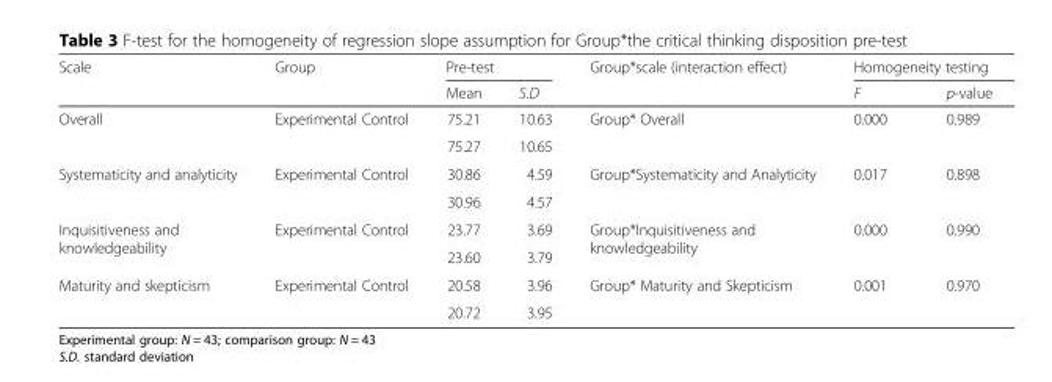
<table><thead><tr><td rowspan="2">Scale</td><td rowspan="2">Group</td><td colspan="2">Pre-test</td><td rowspan="2">Group*scale (interaction effect)</td><td colspan="2">Homogeneity testing</td></tr><tr><td>Mean</td><td>S.D</td><td>F</td><td>p-value</td></tr></thead><tbody><tr><td rowspan="2">Overall</td><td rowspan="2">Experimental Control</td><td>75.21</td><td>10.63</td><td rowspan="2">Group* Overall</td><td rowspan="2">0.000</td><td rowspan="2">0.989</td></tr><tr><td>75.27</td><td>10.65</td></tr><tr><td rowspan="2">Systematicity and analyticity</td><td rowspan="2">Experimental Control</td><td>30.86</td><td>4.59</td><td rowspan="2">Group*Systematicity and Analyticity</td><td rowspan="2">0.017</td><td rowspan="2">0.898</td></tr><tr><td>30.96</td><td>4.57</td></tr><tr><td rowspan="2">Inquisitiveness and knowledgeability</td><td rowspan="2">Experimental Control</td><td>23.77</td><td>3.69</td><td rowspan="2">Group*Inquisitiveness and knowledgeability</td><td rowspan="2">0.000</td><td rowspan="2">0.990</td></tr><tr><td>23.60</td><td>3.79</td></tr><tr><td rowspan="2">Maturity and skepticism</td><td rowspan="2">Experimental Control</td><td>20.58</td><td>3.96</td><td rowspan="2">Group* Maturity and Skepticism</td><td rowspan="2">0.001</td><td rowspan="2">0.970</td></tr><tr><td>20.72</td><td>3.95</td></tr></tbody></table>